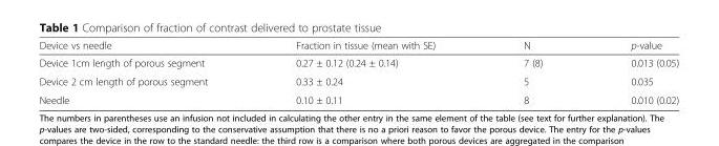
<table><thead><tr><td>Device vs needle</td><td>Fraction in tissue (mean with SE)</td><td>N</td><td>p-value</td></tr></thead><tbody><tr><td>Device 1cm length of porous segment</td><td>0.27 ± 0.12 (0.24 ± 0.14)</td><td>7 (8)</td><td>0.013 (0.05)</td></tr><tr><td>Device 2 cm length of porous segment</td><td>0.33 ± 0.24</td><td>5</td><td>0.035</td></tr><tr><td>Needle</td><td>0.10 ± 0.11</td><td>8</td><td>0.010 (0.02)</td></tr></tbody></table>